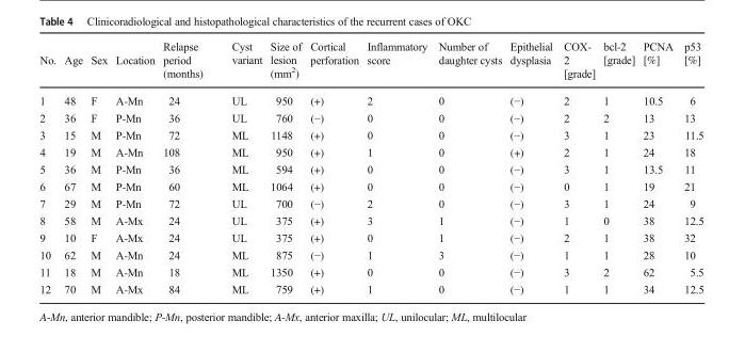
<table><thead><tr><td>No.</td><td>Age</td><td>Sex</td><td>Location</td><td>Relapse period (months)</td><td>Cyst variant</td><td>Size of lesion (mm<sup>2</sup>)</td><td>Cortical perforation</td><td>Inflammatory score</td><td>Number of daughter cysts</td><td>Epithelial dysplasia</td><td>COX- 2 [grade]</td><td>bcl-2 [grade]</td><td>PCNA [%]</td><td>p53 [%]</td></tr></thead><tbody><tr><td>1</td><td>48</td><td>F</td><td>A-Mn</td><td>24</td><td>UL</td><td>950</td><td>(+)</td><td>2</td><td>0</td><td>(−)</td><td>2</td><td>1</td><td>10.5</td><td>6</td></tr><tr><td>2</td><td>36</td><td>F</td><td>P-Mn</td><td>36</td><td>UL</td><td>760</td><td>(−)</td><td>0</td><td>0</td><td>(−)</td><td>2</td><td>2</td><td>13</td><td>13</td></tr><tr><td>3</td><td>15</td><td>M</td><td>P-Mn</td><td>72</td><td>ML</td><td>1148</td><td>(+)</td><td>0</td><td>0</td><td>(−)</td><td>3</td><td>1</td><td>23</td><td>11.5</td></tr><tr><td>4</td><td>19</td><td>M</td><td>A-Mn</td><td>108</td><td>ML</td><td>950</td><td>(+)</td><td>1</td><td>0</td><td>(+)</td><td>2</td><td>1</td><td>24</td><td>18</td></tr><tr><td>5</td><td>36</td><td>M</td><td>P-Mn</td><td>36</td><td>ML</td><td>594</td><td>(+)</td><td>0</td><td>0</td><td>(−)</td><td>3</td><td>1</td><td>13.5</td><td>11</td></tr><tr><td>6</td><td>67</td><td>M</td><td>P-Mn</td><td>60</td><td>ML</td><td>1064</td><td>(+)</td><td>0</td><td>0</td><td>(−)</td><td>0</td><td>1</td><td>19</td><td>21</td></tr><tr><td>7</td><td>29</td><td>M</td><td>P-Mn</td><td>72</td><td>UL</td><td>700</td><td>(−)</td><td>2</td><td>0</td><td>(−)</td><td>3</td><td>1</td><td>24</td><td>9</td></tr><tr><td>8</td><td>58</td><td>M</td><td>A-Mx</td><td>24</td><td>UL</td><td>375</td><td>(+)</td><td>3</td><td>1</td><td>(−)</td><td>1</td><td>0</td><td>38</td><td>12.5</td></tr><tr><td>9</td><td>10</td><td>F</td><td>A-Mx</td><td>24</td><td>UL</td><td>375</td><td>(+)</td><td>0</td><td>1</td><td>(−)</td><td>2</td><td>1</td><td>38</td><td>32</td></tr><tr><td>10</td><td>62</td><td>M</td><td>A-Mn</td><td>24</td><td>ML</td><td>875</td><td>(−)</td><td>1</td><td>3</td><td>(−)</td><td>1</td><td>1</td><td>28</td><td>10</td></tr><tr><td>11</td><td>18</td><td>M</td><td>A-Mn</td><td>18</td><td>ML</td><td>1350</td><td>(+)</td><td>0</td><td>0</td><td>(−)</td><td>3</td><td>2</td><td>62</td><td>5.5</td></tr><tr><td>12</td><td>70</td><td>M</td><td>A-Mx</td><td>84</td><td>ML</td><td>759</td><td>(+)</td><td>1</td><td>0</td><td>(−)</td><td>1</td><td>1</td><td>34</td><td>12.5</td></tr></tbody></table>